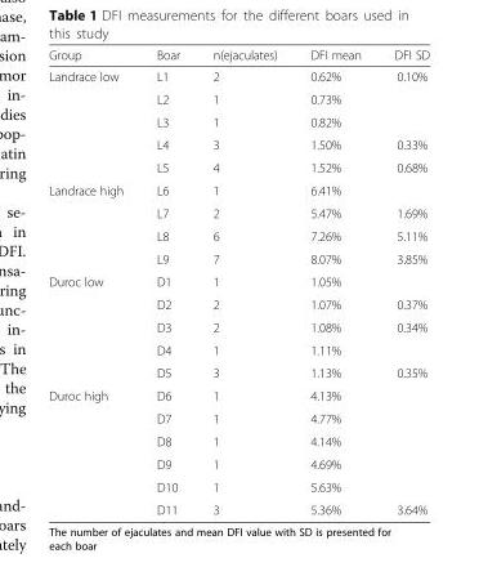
<table><thead><tr><td>Group</td><td>Boar</td><td>n(ejaculates)</td><td>DFI mean</td><td>DFI SD</td></tr></thead><tbody><tr><td rowspan="5">Landrace low</td><td>L1</td><td>2</td><td>0.62%</td><td>0.10%</td></tr><tr><td>L2</td><td>1</td><td>0.73%</td><td></td></tr><tr><td>L3</td><td>1</td><td>0.82%</td><td></td></tr><tr><td>L4</td><td>3</td><td>1.50%</td><td>0.33%</td></tr><tr><td>L5</td><td>4</td><td>1.52%</td><td>0.68%</td></tr><tr><td rowspan="4">Landrace high</td><td>L6</td><td>1</td><td>6.41%</td><td></td></tr><tr><td>L7</td><td>2</td><td>5.47%</td><td>1.69%</td></tr><tr><td>L8</td><td>6</td><td>7.26%</td><td>5.11%</td></tr><tr><td>L9</td><td>7</td><td>8.07%</td><td>3.85%</td></tr><tr><td rowspan="5">Duroc low</td><td>D1</td><td>1</td><td>1.05%</td><td></td></tr><tr><td>D2</td><td>2</td><td>1.07%</td><td>0.37%</td></tr><tr><td>D3</td><td>2</td><td>1.08%</td><td>0.34%</td></tr><tr><td>D4</td><td>1</td><td>1.11%</td><td></td></tr><tr><td>D5</td><td>3</td><td>1.13%</td><td>0.35%</td></tr><tr><td rowspan="6">Duroc high</td><td>D6</td><td>1</td><td>4.13%</td><td></td></tr><tr><td>D7</td><td>1</td><td>4.77%</td><td></td></tr><tr><td>D8</td><td>1</td><td>4.14%</td><td></td></tr><tr><td>D9</td><td>1</td><td>4.69%</td><td></td></tr><tr><td>D10</td><td>1</td><td>5.63%</td><td></td></tr><tr><td>D11</td><td>3</td><td>5.36%</td><td>3.64%</td></tr></tbody></table>